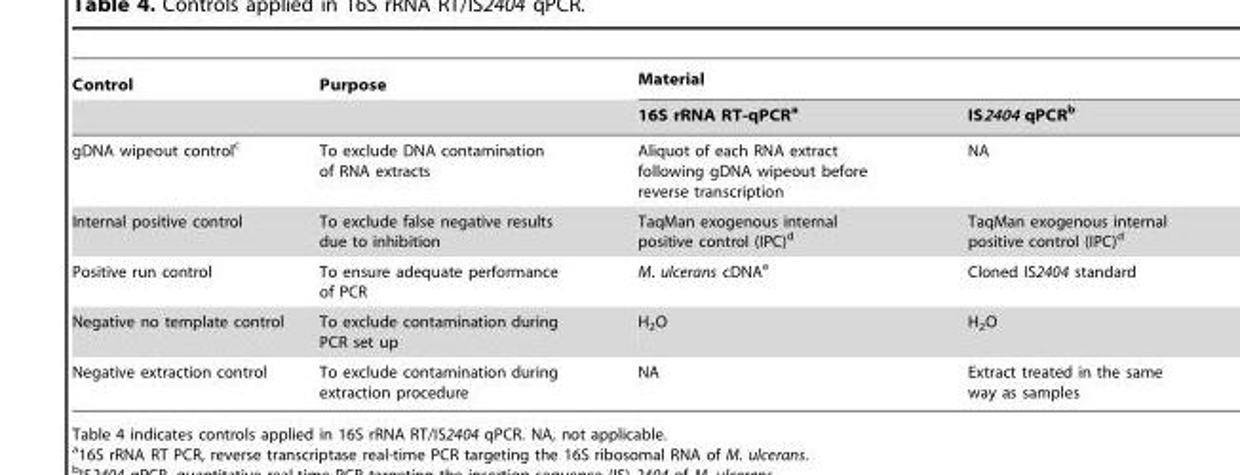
<table><thead><tr><td rowspan="2">Control</td><td rowspan="2">Purpose</td><td colspan="2">Material</td></tr><tr><td>16S rRNA RT-qPCR<sup>a</sup></td><td>IS2404 qPCR<sup>b</sup></td></tr></thead><tbody><tr><td>gDNA wipeout control<sup>c</sup></td><td>To exclude DNA contamination of RNA extracts</td><td>Aliquot of each RNA extract following gDNA wipeout before reverse transcription</td><td>NA</td></tr><tr><td>Internal positive control</td><td>To exclude false negative results due to inhibition</td><td>TaqMan exogenous internal positive control (IPC)<sup>d</sup></td><td>TaqMan exogenous internal positive control (IPC)<sup>d</sup></td></tr><tr><td>Positive run control</td><td>To ensure adequate performance of PCR</td><td>M. ulcerans cDNA<sup>e</sup></td><td>Cloned IS2404 standard</td></tr><tr><td>Negative no template control</td><td>To exclude contamination during PCR set up</td><td>H<sub>2</sub>O</td><td>H<sub>2</sub>O</td></tr><tr><td>Negative extraction control</td><td>To exclude contamination during extraction procedure</td><td>NA</td><td>Extract treated in the same way as samples</td></tr></tbody></table>